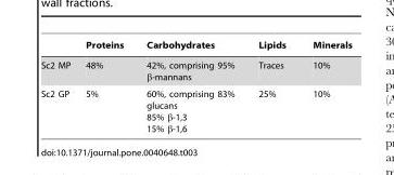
<table><thead><tr><td></td><td>Proteins</td><td>Carbohydrates</td><td>Lipids</td><td>Minerals</td></tr></thead><tbody><tr><td>Sc2 MP</td><td>48%</td><td>42%, comprising 95% β-mannans</td><td>Traces</td><td>10%</td></tr><tr><td>Sc2 GP</td><td>5%</td><td>60%, comprising 83% glucans 85% β-1,3 15% β-1,6</td><td>25%</td><td>10%</td></tr></tbody></table>